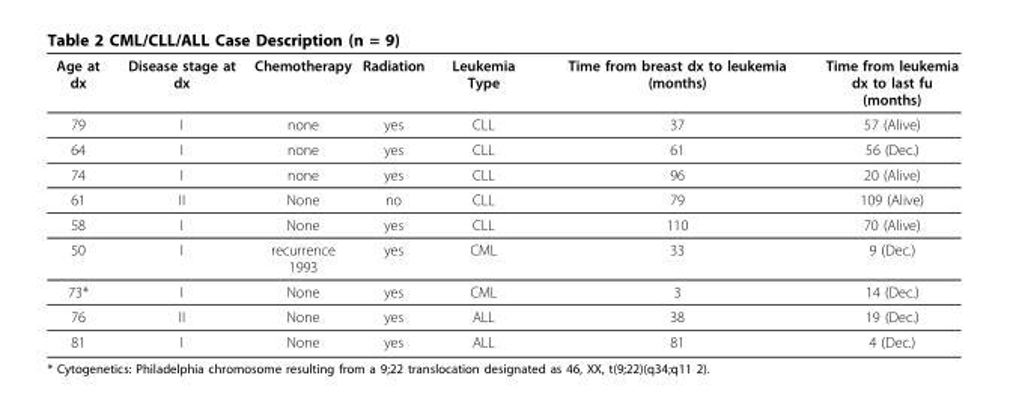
<table><thead><tr><td>Age at dx</td><td>Disease stage at dx</td><td>Chemotherapy</td><td>Radiation</td><td>Leukemia Type</td><td>Time from breast dx to leukemia (months)</td><td>Time from leukemia dx to last fu (months)</td></tr></thead><tbody><tr><td>79</td><td>I</td><td>none</td><td>yes</td><td>CLL</td><td>37</td><td>57 (Alive)</td></tr><tr><td>64</td><td>I</td><td>none</td><td>yes</td><td>CLL</td><td>61</td><td>56 (Dec.)</td></tr><tr><td>74</td><td>I</td><td>none</td><td>yes</td><td>CLL</td><td>96</td><td>20 (Alive)</td></tr><tr><td>61</td><td>II</td><td>None</td><td>no</td><td>CLL</td><td>79</td><td>109 (Alive)</td></tr><tr><td>58</td><td>I</td><td>None</td><td>yes</td><td>CLL</td><td>110</td><td>70 (Alive)</td></tr><tr><td>50</td><td>I</td><td>recurrence 1993</td><td>yes</td><td>CML</td><td>33</td><td>9 (Dec.)</td></tr><tr><td>73*</td><td>I</td><td>None</td><td>yes</td><td>CML</td><td>3</td><td>14 (Dec.)</td></tr><tr><td>76</td><td>II</td><td>None</td><td>yes</td><td>ALL</td><td>38</td><td>19 (Dec.)</td></tr><tr><td>81</td><td>I</td><td>None</td><td>yes</td><td>ALL</td><td>81</td><td>4 (Dec.)</td></tr></tbody></table>